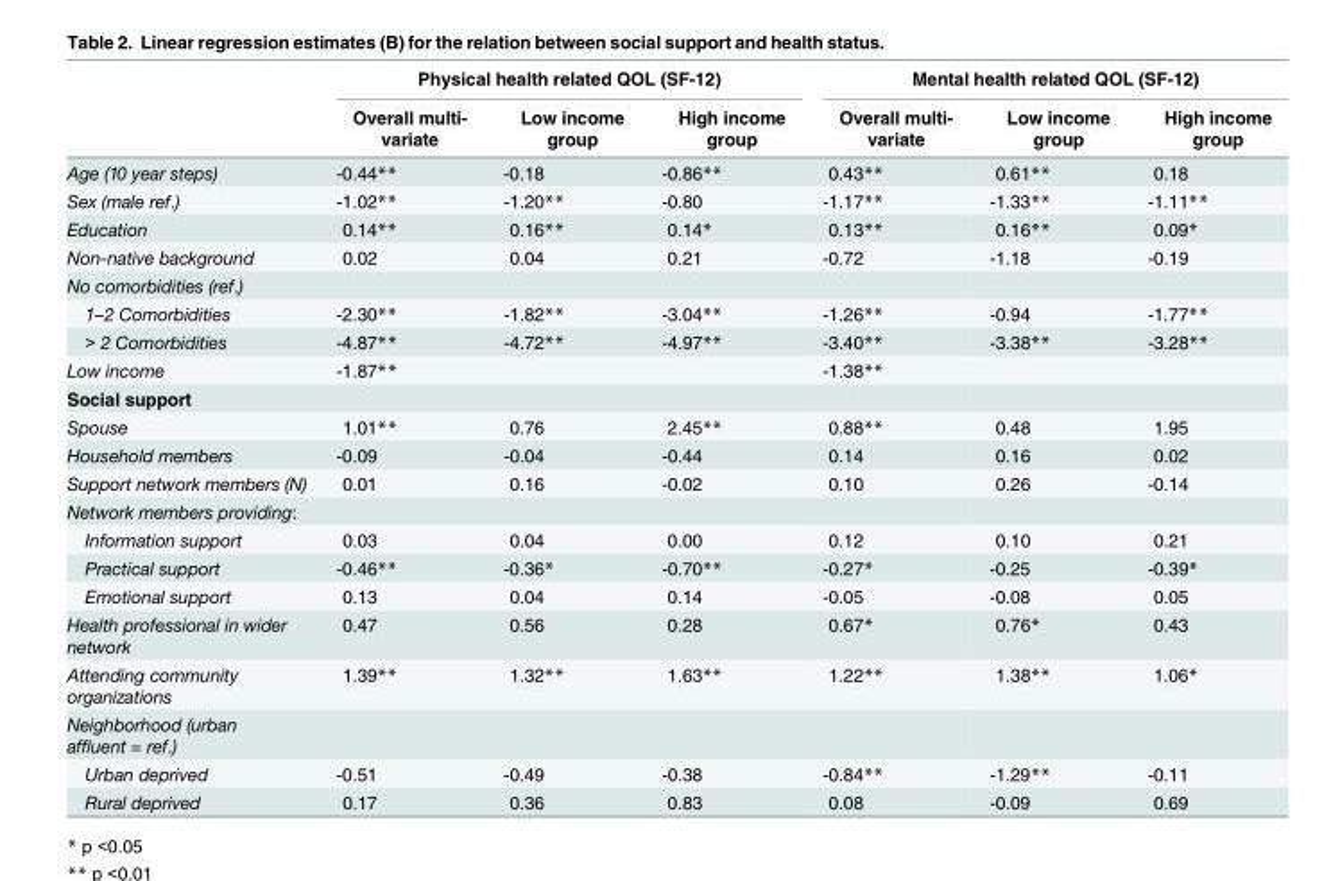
<table><thead><tr><td rowspan="2"></td><td colspan="3">Physical health related QOL (SF-12)</td><td colspan="3">Mental health related QOL (SF-12)</td></tr><tr><td>Overall multi- variate</td><td>Low income group</td><td>High income group</td><td>Overall multi- variate</td><td>Low income group</td><td>High income group</td></tr></thead><tbody><tr><td>Age (10 year steps)</td><td>-0.44**</td><td>-0.18</td><td>-0.86**</td><td>0.43**</td><td>0.61**</td><td>0.18</td></tr><tr><td>Sex (male ref.)</td><td>-1.02**</td><td>-1.20**</td><td>-0.80</td><td>-1.17**</td><td>-1.33**</td><td>-1.11**</td></tr><tr><td>Education</td><td>0.14**</td><td>0.16**</td><td>0.14*</td><td>0.13**</td><td>0.16**</td><td>0.09*</td></tr><tr><td>Non-native background</td><td>0.02</td><td>0.04</td><td>0.21</td><td>-0.72</td><td>-1.18</td><td>-0.19</td></tr><tr><td colspan="7">No comorbidities (ref.)</td></tr><tr><td>1–2 Comorbidities</td><td>-2.30**</td><td>-1.82**</td><td>-3.04**</td><td>-1.26**</td><td>-0.94</td><td>-1.77**</td></tr><tr><td>&gt; 2 Comorbidities</td><td>-4.87**</td><td>-4.72**</td><td>-4.97**</td><td>-3.40**</td><td>-3.38**</td><td>-3.28**</td></tr><tr><td>Low income</td><td>-1.87**</td><td></td><td></td><td>-1.38**</td><td></td><td></td></tr><tr><td colspan="7">Social support</td></tr><tr><td>Spouse</td><td>1.01**</td><td>0.76</td><td>2.45**</td><td>0.88**</td><td>0.48</td><td>1.95</td></tr><tr><td>Household members</td><td>-0.09</td><td>-0.04</td><td>-0.44</td><td>0.14</td><td>0.16</td><td>0.02</td></tr><tr><td>Support network members (N)</td><td>0.01</td><td>0.16</td><td>-0.02</td><td>0.10</td><td>0.26</td><td>-0.14</td></tr><tr><td colspan="7">Network members providing:</td></tr><tr><td>Information support</td><td>0.03</td><td>0.04</td><td>0.00</td><td>0.12</td><td>0.10</td><td>0.21</td></tr><tr><td>Practical support</td><td>-0.46**</td><td>-0.36*</td><td>-0.70**</td><td>-0.27*</td><td>-0.25</td><td>-0.39*</td></tr><tr><td>Emotional support</td><td>0.13</td><td>0.04</td><td>0.14</td><td>-0.05</td><td>-0.08</td><td>0.05</td></tr><tr><td>Health professional in wider network</td><td>0.47</td><td>0.56</td><td>0.28</td><td>0.67*</td><td>0.76*</td><td>0.43</td></tr><tr><td>Attending community organizations</td><td>1.39**</td><td>1.32**</td><td>1.63**</td><td>1.22**</td><td>1.38**</td><td>1.06*</td></tr><tr><td colspan="7">Neighborhood (urban affluent = ref.)</td></tr><tr><td>Urban deprived</td><td>-0.51</td><td>-0.49</td><td>-0.38</td><td>-0.84**</td><td>-1.29**</td><td>-0.11</td></tr><tr><td>Rural deprived</td><td>0.17</td><td>0.36</td><td>0.83</td><td>0.08</td><td>-0.09</td><td>0.69</td></tr></tbody></table>